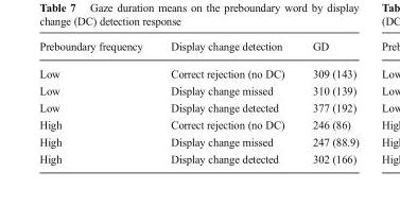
<table><thead><tr><td>Preboundary frequency</td><td>Display change detection</td><td>GD</td></tr></thead><tbody><tr><td>Low</td><td>Correct rejection (no DC)</td><td>309 (143)</td></tr><tr><td>Low</td><td>Display change missed</td><td>310 (139)</td></tr><tr><td>Low</td><td>Display change detected</td><td>377 (192)</td></tr><tr><td>High</td><td>Correct rejection (no DC)</td><td>246 (86)</td></tr><tr><td>High</td><td>Display change missed</td><td>247 (88.9)</td></tr><tr><td>High</td><td>Display change detected</td><td>302 (166)</td></tr></tbody></table>